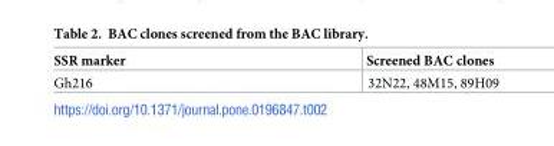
<table><thead><tr><td>SSR marker</td><td>Screened BAC clones</td></tr></thead><tbody><tr><td>Gh216</td><td>32N22, 48M15, 89H09</td></tr></tbody></table>